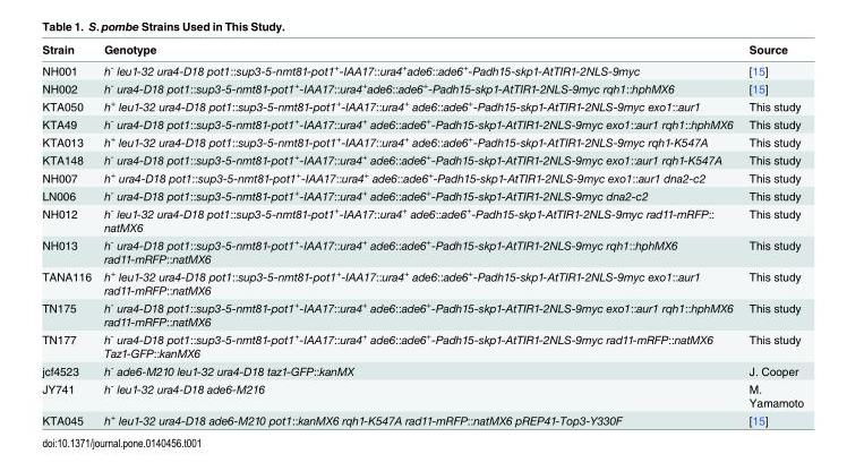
<table><thead><tr><td>Strain</td><td>Genotype</td><td>Source</td></tr></thead><tbody><tr><td>NH001</td><td>h<sup>-</sup> leu1-32 ura4-D18 pot1::sup3-5-nmt81-pot1<sup>+</sup>-IAA17::ura4<sup>+</sup>ade6::ade6<sup>+</sup>-Padh15-skp1-AtTIR1-2NLS-9myc</td><td>[15]</td></tr><tr><td>NH002</td><td>h<sup>-</sup> ura4-D18 pot1::sup3-5-nmt81-pot1<sup>+</sup>-IAA17::ura4<sup>+</sup>ade6::ade6<sup>+</sup>-Padh15-skp1-AtTIR1-2NLS-9myc rqh1::hphMX6</td><td>[15]</td></tr><tr><td>KTA050</td><td>h<sup>+</sup> leu1-32 ura4-D18 pot1::sup3-5-nmt81-pot1<sup>+</sup>-IAA17::ura4<sup>+</sup> ade6::ade6<sup>+</sup>-Padh15-skp1-AtTIR1-2NLS-9myc exo1::aur1</td><td>This study</td></tr><tr><td>KTA49</td><td>h<sup>-</sup> ura4-D18 pot1::sup3-5-nmt81-pot1<sup>+</sup>-IAA17::ura4<sup>+</sup> ade6::ade6<sup>+</sup>-Padh15-skp1-AtTIR1-2NLS-9myc exo1::aur1 rqh1::hphMX6</td><td>This study</td></tr><tr><td>KTA013</td><td>h<sup>+</sup> leu1-32 ura4-D18 pot1::sup3-5-nmt81-pot1<sup>+</sup>-IAA17::ura4<sup>+</sup> ade6::ade6<sup>+</sup>-Padh15-skp1-AtTIR1-2NLS-9myc rqh1-K547A</td><td>This study</td></tr><tr><td>KTA148</td><td>h<sup>-</sup> ura4-D18 pot1::sup3-5-nmt81-pot1<sup>+</sup>-IAA17::ura4<sup>+</sup> ade6::ade6<sup>+</sup>-Padh15-skp1-AtTIR1-2NLS-9myc exo1::aur1 rqh1-K547A</td><td>This study</td></tr><tr><td>NH007</td><td>h<sup>+</sup> ura4-D18 pot1::sup3-5-nmt81-pot1<sup>+</sup>-IAA17::ura4<sup>+</sup> ade6::ade6<sup>+</sup>-Padh15-skp1-AtTIR1-2NLS-9myc exo1::aur1 dna2-c2</td><td>This study</td></tr><tr><td>LN006</td><td>h<sup>-</sup> ura4-D18 pot1::sup3-5-nmt81-pot1<sup>+</sup>-IAA17::ura4<sup>+</sup> ade6::ade6<sup>+</sup>-Padh15-skp1-AtTIR1-2NLS-9myc dna2-c2</td><td>This study</td></tr><tr><td>NH012</td><td>h<sup>-</sup> leu1-32 ura4-D18 pot1::sup3-5-nmt81-pot1<sup>+</sup>-IAA17::ura4<sup>+</sup> ade6::ade6<sup>+</sup>-Padh15-skp1-AtTIR1-2NLS-9myc rad11-mRFP:: natMX6</td><td>This study</td></tr><tr><td>NH013</td><td>h<sup>-</sup> ura4-D18 pot1::sup3-5-nmt81-pot1<sup>+</sup>-IAA17::ura4<sup>+</sup> ade6::ade6<sup>+</sup>-Padh15-skp1-AtTIR1-2NLS-9myc rqh1::hphMX6 rad11-mRFP::natMX6</td><td>This study</td></tr><tr><td>TANA116</td><td>h<sup>+</sup> leu1-32 ura4-D18 pot1::sup3-5-nmt81-pot1<sup>+</sup>-IAA17::ura4<sup>+</sup> ade6::ade6<sup>+</sup>-Padh15-skp1-AtTIR1-2NLS-9myc exo1::aur1 rad11-mRFP::natMX6</td><td>This study</td></tr><tr><td>TN175</td><td>h<sup>-</sup> ura4-D18 pot1::sup3-5-nmt81-pot1<sup>+</sup>-IAA17::ura4<sup>+</sup> ade6::ade6<sup>+</sup>-Padh15-skp1-AtTIR1-2NLS-9myc exo1::aur1 rqh1::hphMX6 rad11-mRFP::natMX6</td><td>This study</td></tr><tr><td>TN177</td><td>h<sup>-</sup> ura4-D18 pot1::sup3-5-nmt81-pot1<sup>+</sup>-IAA17::ura4<sup>+</sup> ade6::ade6<sup>+</sup>-Padh15-skp1-AtTIR1-2NLS-9myc rad11-mRFP::natMX6 Taz1-GFP::kanMX6</td><td>This study</td></tr><tr><td>jcf4523</td><td>h<sup>-</sup> ade6-M210 leu1-32 ura4-D18 taz1-GFP::kanMX</td><td>J. Cooper</td></tr><tr><td>JY741</td><td>h<sup>-</sup> leu1-32 ura4-D18 ade6-M216</td><td>M. Yamamoto</td></tr><tr><td>KTA045</td><td>h<sup>+</sup> leu1-32 ura4-D18 ade6-M210 pot1::kanMX6 rqh1-K547A rad11-mRFP::natMX6 pREP41-Top3-Y330F</td><td>[15]</td></tr></tbody></table>